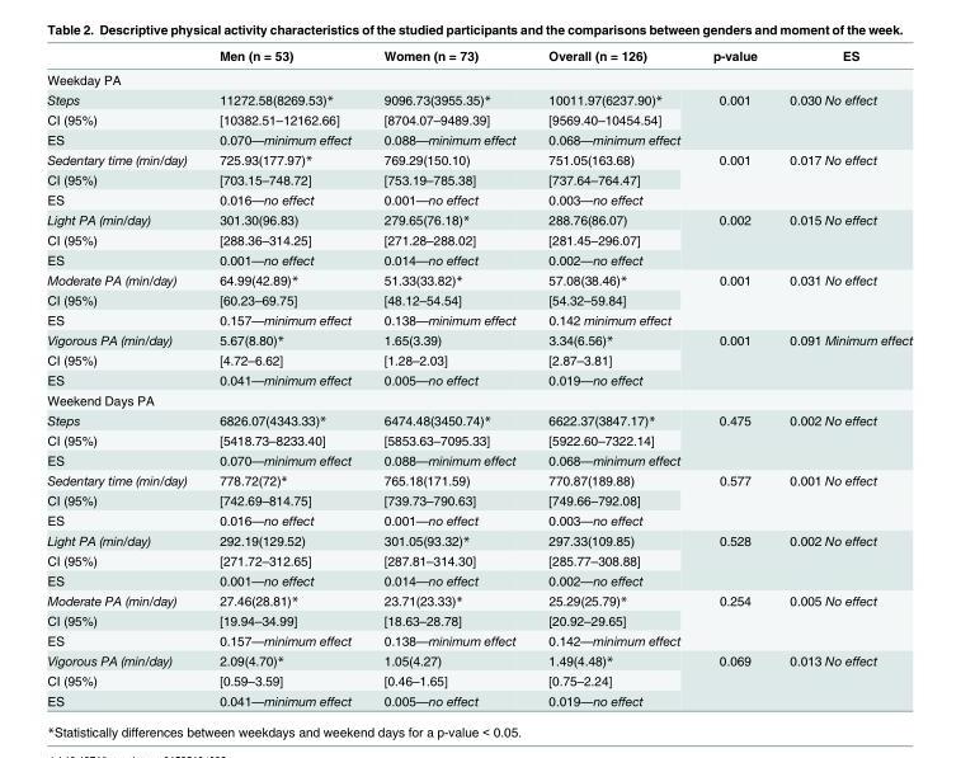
<table><thead><tr><td></td><td>Men (n = 53)</td><td>Women (n = 73)</td><td>Overall (n = 126)</td><td>p-value</td><td>ES</td></tr></thead><tbody><tr><td colspan="6">Weekday PA</td></tr><tr><td>Steps</td><td>11272.58(8269.53)*</td><td>9096.73(3955.35)*</td><td>10011.97(6237.90)*</td><td rowspan="3">0.001</td><td rowspan="3">0.030 No effect</td></tr><tr><td>CI (95%)</td><td>[10382.51–12162.66]</td><td>[8704.07–9489.39]</td><td>[9569.40–10454.54]</td></tr><tr><td>ES</td><td>0.070—minimum effect</td><td>0.088—minimum effect</td><td>0.068—minimum effect</td></tr><tr><td>Sedentary time (min/day)</td><td>725.93(177.97)*</td><td>769.29(150.10)</td><td>751.05(163.68)</td><td rowspan="3">0.001</td><td rowspan="3">0.017 No effect</td></tr><tr><td>CI (95%)</td><td>[703.15–748.72]</td><td>[753.19–785.38]</td><td>[737.64–764.47]</td></tr><tr><td>ES</td><td>0.016—no effect</td><td>0.001—no effect</td><td>0.003—no effect</td></tr><tr><td>Light PA (min/day)</td><td>301.30(96.83)</td><td>279.65(76.18)*</td><td>288.76(86.07)</td><td rowspan="3">0.002</td><td rowspan="3">0.015 No effect</td></tr><tr><td>CI (95%)</td><td>[288.36–314.25]</td><td>[271.28–288.02]</td><td>[281.45–296.07]</td></tr><tr><td>ES</td><td>0.001—no effect</td><td>0.014—no effect</td><td>0.002—no effect</td></tr><tr><td>Moderate PA (min/day)</td><td>64.99(42.89)*</td><td>51.33(33.82)*</td><td>57.08(38.46)*</td><td rowspan="3">0.001</td><td rowspan="3">0.031 No effect</td></tr><tr><td>CI (95%)</td><td>[60.23–69.75]</td><td>[48.12–54.54]</td><td>[54.32–59.84]</td></tr><tr><td>ES</td><td>0.157—minimum effect</td><td>0.138—minimum effect</td><td>0.142 minimum effect</td></tr><tr><td>Vigorous PA (min/day)</td><td>5.67(8.80)*</td><td>1.65(3.39)</td><td>3.34(6.56)*</td><td rowspan="3">0.001</td><td rowspan="3">0.091 Minimum effect</td></tr><tr><td>CI (95%)</td><td>[4.72–6.62]</td><td>[1.28–2.03]</td><td>[2.87–3.81]</td></tr><tr><td>ES</td><td>0.041—minimum effect</td><td>0.005—no effect</td><td>0.019—no effect</td></tr><tr><td colspan="6">Weekend Days PA</td></tr><tr><td>Steps</td><td>6826.07(4343.33)*</td><td>6474.48(3450.74)*</td><td>6622.37(3847.17)*</td><td rowspan="3">0.475</td><td rowspan="3">0.002 No effect</td></tr><tr><td>CI (95%)</td><td>[5418.73–8233.40]</td><td>[5853.63–7095.33]</td><td>[5922.60–7322.14]</td></tr><tr><td>ES</td><td>0.070—minimum effect</td><td>0.088—minimum effect</td><td>0.068—minimum effect</td></tr><tr><td>Sedentary time (min/day)</td><td>778.72(72)*</td><td>765.18(171.59)</td><td>770.87(189.88)</td><td rowspan="3">0.577</td><td rowspan="3">0.001 No effect</td></tr><tr><td>CI (95%)</td><td>[742.69–814.75]</td><td>[739.73–790.63]</td><td>[749.66–792.08]</td></tr><tr><td>ES</td><td>0.016—no effect</td><td>0.001—no effect</td><td>0.003—no effect</td></tr><tr><td>Light PA (min/day)</td><td>292.19(129.52)</td><td>301.05(93.32)*</td><td>297.33(109.85)</td><td rowspan="3">0.528</td><td rowspan="3">0.002 No effect</td></tr><tr><td>CI (95%)</td><td>[271.72–312.65]</td><td>[287.81–314.30]</td><td>[285.77–308.88]</td></tr><tr><td>ES</td><td>0.001—no effect</td><td>0.014—no effect</td><td>0.002—no effect</td></tr><tr><td>Moderate PA (min/day)</td><td>27.46(28.81)*</td><td>23.71(23.33)*</td><td>25.29(25.79)*</td><td rowspan="3">0.254</td><td rowspan="3">0.005 No effect</td></tr><tr><td>CI (95%)</td><td>[19.94–34.99]</td><td>[18.63–28.78]</td><td>[20.92–29.65]</td></tr><tr><td>ES</td><td>0.157—minimum effect</td><td>0.138—minimum effect</td><td>0.142—minimum effect</td></tr><tr><td>Vigorous PA (min/day)</td><td>2.09(4.70)*</td><td>1.05(4.27)</td><td>1.49(4.48)*</td><td rowspan="3">0.069</td><td rowspan="3">0.013 No effect</td></tr><tr><td>CI (95%)</td><td>[0.59–3.59]</td><td>[0.46–1.65]</td><td>[0.75–2.24]</td></tr><tr><td>ES</td><td>0.041—minimum effect</td><td>0.005—no effect</td><td>0.019—no effect</td></tr></tbody></table>